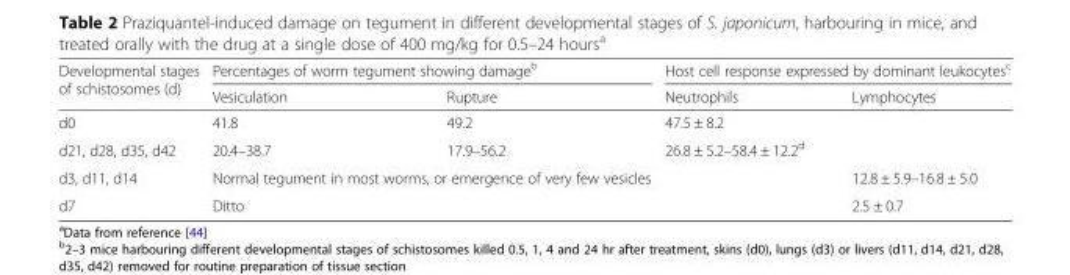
<table><thead><tr><td rowspan="2">Developmental stages of schistosomes (d)</td><td colspan="2">Percentages of worm tegument showing damage<sup>b</sup></td><td colspan="2">Host cell response expressed by dominant leukocytes<sup>c</sup></td></tr><tr><td>Vesiculation</td><td>Rupture</td><td>Neutrophils</td><td>Lymphocytes</td></tr></thead><tbody><tr><td>d0</td><td>41.8</td><td>49.2</td><td>47.5 ± 8.2</td><td></td></tr><tr><td>d21, d28, d35, d42</td><td>20.4–38.7</td><td>17.9–56.2</td><td>26.8 ± 5.2–58.4 ± 12.2<sup>d</sup></td><td></td></tr><tr><td>d3, d11, d14</td><td colspan="2">Normal tegument in most worms, or emergence of very few vesicles</td><td></td><td>12.8 ± 5.9–16.8 ± 5.0</td></tr><tr><td>d7</td><td colspan="2">Ditto</td><td></td><td>2.5 ± 0.7</td></tr></tbody></table>